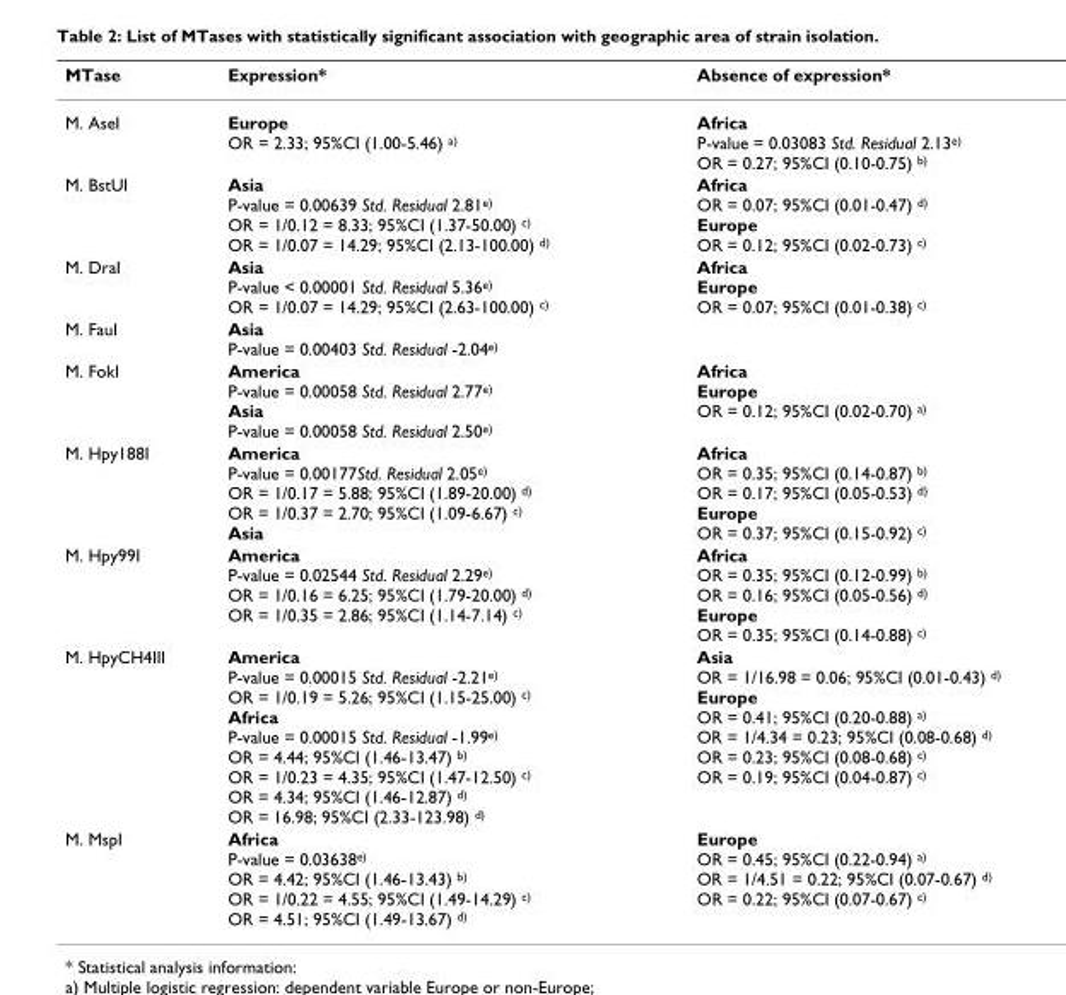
<table><thead><tr><td>MTase</td><td>Expression*</td><td>Absence of expression*</td></tr></thead><tbody><tr><td>M. AseI</td><td>Europe OR = 2.33; 95%CI (1.00-5.46) <sup>a)</sup></td><td>Africa P-value = 0.03083 Std. Residual 2.13<sup>e)</sup> OR = 0.27; 95%CI (0.10-0.75) <sup>b)</sup></td></tr><tr><td>M. BstUI</td><td>Asia P-value = 0.00639 Std. Residual 2.81<sup>e)</sup> OR = 1/0.12 = 8.33; 95%CI (1.37-50.00) <sup>c)</sup> OR = 1/0.07 = 14.29; 95%CI (2.13-100.00) <sup>d)</sup></td><td>Africa OR = 0.07; 95%CI (0.01-0.47) <sup>d)</sup> Europe OR = 0.12; 95%CI (0.02-0.73) <sup>c)</sup></td></tr><tr><td>M. DraI</td><td>Asia P-value &lt; 0.00001 Std. Residual 5.36<sup>e)</sup> OR = 1/0.07 = 14.29; 95%CI (2.63-100.00) <sup>c)</sup></td><td>Africa Europe OR = 0.07; 95%CI (0.01-0.38) <sup>c)</sup></td></tr><tr><td>M. FauI</td><td>Asia P-value = 0.00403 Std. Residual -2.04<sup>e)</sup></td><td></td></tr><tr><td>M. FokI</td><td>America P-value = 0.00058 Std. Residual 2.77<sup>e)</sup> Asia P-value = 0.00058 Std. Residual 2.50<sup>e)</sup></td><td>Africa Europe OR = 0.12; 95%CI (0.02-0.70) <sup>a)</sup></td></tr><tr><td>M. Hpy188I</td><td>America P-value = 0.00177Std. Residual 2.05<sup>e)</sup> OR = 1/0.17 = 5.88; 95%CI (1.89-20.00) <sup>d)</sup> OR = 1/0.37 = 2.70; 95%CI (1.09-6.67) <sup>c)</sup> Asia</td><td>Africa OR = 0.35; 95%CI (0.14-0.87) <sup>b)</sup> OR = 0.17; 95%CI (0.05-0.53) <sup>d)</sup> Europe OR = 0.37; 95%CI (0.15-0.92) <sup>c)</sup></td></tr><tr><td>M. Hpy99I</td><td>America P-value = 0.02544 Std. Residual 2.29<sup>e)</sup> OR = 1/0.16 = 6.25; 95%CI (1.79-20.00) <sup>d)</sup> OR = 1/0.35 = 2.86; 95%CI (1.14-7.14) <sup>c)</sup></td><td>Africa OR = 0.35; 95%CI (0.12-0.99) <sup>b)</sup> OR = 0.16; 95%CI (0.05-0.56) <sup>d)</sup> Europe OR = 0.35; 95%CI (0.14-0.88) <sup>c)</sup></td></tr><tr><td>M. HpyCH4III</td><td>America P-value = 0.00015 Std. Residual -2.21<sup>e)</sup> OR = 1/0.19 = 5.26; 95%CI (1.15-25.00) <sup>c)</sup> Africa P-value = 0.00015 Std. Residual -1.99<sup>e)</sup> OR = 4.44; 95%CI (1.46-13.47) <sup>b)</sup> OR = 1/0.23 = 4.35; 95%CI (1.47-12.50) <sup>c)</sup> OR = 4.34; 95%CI (1.46-12.87) <sup>d)</sup> OR = 16.98; 95%CI (2.33-123.98) <sup>d)</sup></td><td>Asia OR = 1/16.98 = 0.06; 95%CI (0.01-0.43) <sup>d)</sup> Europe OR = 0.41; 95%CI (0.20-0.88) <sup>a)</sup> OR = 1/4.34 = 0.23; 95%CI (0.08-0.68) <sup>d)</sup> OR = 0.23; 95%CI (0.08-0.68) <sup>c)</sup> OR = 0.19; 95%CI (0.04-0.87) <sup>c)</sup></td></tr><tr><td>M. MspI</td><td>Africa P-value = 0.03638<sup>e)</sup> OR = 4.42; 95%CI (1.46-13.43) <sup>b)</sup> OR = 1/0.22 = 4.55; 95%CI (1.49-14.29) <sup>c)</sup> OR = 4.51; 95%CI (1.49-13.67) <sup>d)</sup></td><td>Europe OR = 0.45; 95%CI (0.22-0.94) <sup>a)</sup> OR = 1/4.51 = 0.22; 95%CI (0.07-0.67) <sup>d)</sup> OR = 0.22; 95%CI (0.07-0.67) <sup>c)</sup></td></tr></tbody></table>